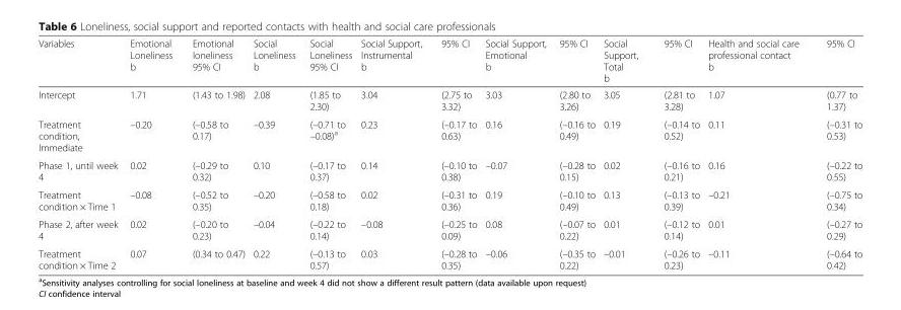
<table><thead><tr><td>Variables</td><td>Emotional Loneliness b</td><td>Emotional loneliness 95% CI</td><td>Social Loneliness b</td><td>Social Loneliness 95% CI</td><td>Social Support, Instrumental b</td><td>95% CI</td><td>Social Support, Emotional b</td><td>95% CI</td><td>Social Support, Total b</td><td>95% CI</td><td>Health and social care professional contact b</td><td>95% CI</td></tr></thead><tbody><tr><td>Intercept</td><td>1.71</td><td>(1.43 to 1.98)</td><td>2.08</td><td>(1.85 to 2.30)</td><td>3.04</td><td>(2.75 to 3.32)</td><td>3.03</td><td>(2.80 to 3.26)</td><td>3.05</td><td>(2.81 to 3.28)</td><td>1.07</td><td>(0.77 to 1.37)</td></tr><tr><td>Treatment condition, Immediate</td><td>–0.20</td><td>(–0.58 to 0.17)</td><td>–0.39</td><td>(–0.71 to –0.08)<sup>a</sup></td><td>0.23</td><td>(–0.17 to 0.63)</td><td>0.16</td><td>(–0.16 to 0.49)</td><td>0.19</td><td>(–0.14 to 0.52)</td><td>0.11</td><td>(–0.31 to 0.53)</td></tr><tr><td>Phase 1, until week 4</td><td>0.02</td><td>(–0.29 to 0.32)</td><td>0.10</td><td>(–0.17 to 0.37)</td><td>0.14</td><td>(–0.10 to 0.38)</td><td>–0.07</td><td>(–0.28 to 0.15)</td><td>0.02</td><td>(–0.16 to 0.21)</td><td>0.16</td><td>(–0.22 to 0.55)</td></tr><tr><td>Treatment condition × Time 1</td><td>–0.08</td><td>(–0.52 to 0.35)</td><td>–0.20</td><td>(–0.58 to 0.18)</td><td>0.02</td><td>(–0.31 to 0.36)</td><td>0.19</td><td>(–0.10 to 0.49)</td><td>0.13</td><td>(–0.13 to 0.39)</td><td>–0.21</td><td>(–0.75 to 0.34)</td></tr><tr><td>Phase 2, after week 4</td><td>0.02</td><td>(–0.20 to 0.23)</td><td>–0.04</td><td>(–0.22 to 0.14)</td><td>–0.08</td><td>(–0.25 to 0.09)</td><td>0.08</td><td>(–0.07 to 0.22)</td><td>0.01</td><td>(–0.12 to 0.14)</td><td>0.01</td><td>(–0.27 to 0.29)</td></tr><tr><td>Treatment condition × Time 2</td><td>0.07</td><td>(0.34 to 0.47)</td><td>0.22</td><td>(–0.13 to 0.57)</td><td>0.03</td><td>(–0.28 to 0.35)</td><td>–0.06</td><td>(–0.35 to 0.22)</td><td>–0.01</td><td>(–0.26 to 0.23)</td><td>–0.11</td><td>(–0.64 to 0.42)</td></tr></tbody></table>